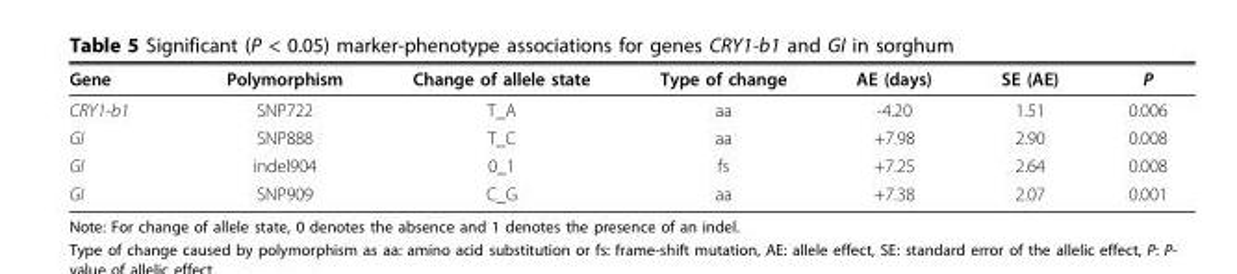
<table><tbody><tr><td>Gene</td><td>Polymorphism</td><td>Change of allele state</td><td>Type of change</td><td>AE (days)</td><td>SE (AE)</td><td>P</td></tr><tr><td>CRY1-b1</td><td>SNP722</td><td>T_A</td><td>aa</td><td>-4.20</td><td>1.51</td><td>0.006</td></tr><tr><td>GI</td><td>SNP888</td><td>T_C</td><td>aa</td><td>+7.98</td><td>2.90</td><td>0.008</td></tr><tr><td>GI</td><td>indel904</td><td>0_1</td><td>fs</td><td>+7.25</td><td>2.64</td><td>0.008</td></tr><tr><td>GI</td><td>SNP909</td><td>C_G</td><td>aa</td><td>+7.38</td><td>2.07</td><td>0.001</td></tr></tbody></table>